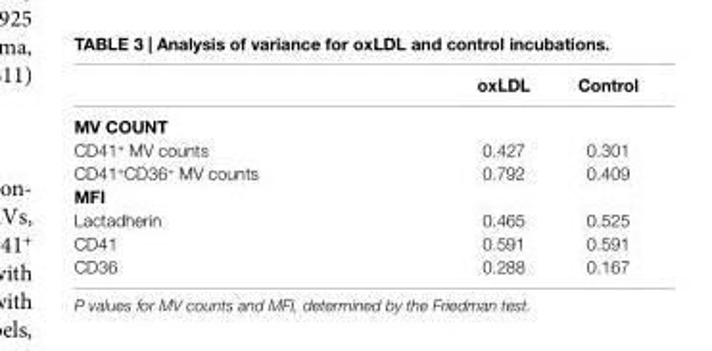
<table><thead><tr><td></td><td>oxlDl</td><td>control</td></tr></thead><tbody><tr><td colspan="3">MV cOUnT</td></tr><tr><td>CD41<sup>+</sup> MV counts</td><td>0.427</td><td>0.301</td></tr><tr><td>CD41<sup>+</sup>CD36<sup>+</sup> MV counts</td><td>0.792</td><td>0.409</td></tr><tr><td colspan="3">MFi</td></tr><tr><td>Lactadherin</td><td>0.465</td><td>0.525</td></tr><tr><td>CD41</td><td>0.591</td><td>0.591</td></tr><tr><td>CD36</td><td>0.288</td><td>0.167</td></tr></tbody></table>